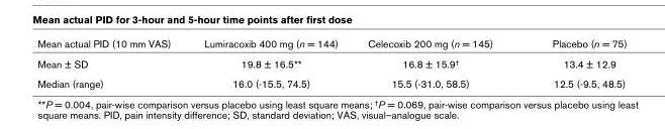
<table><thead><tr><td>Mean actual PID (10 mm VAS)</td><td>Lumiracoxib 400 mg (n = 144)</td><td>Celecoxib 200 mg (n = 145)</td><td>Placebo (n = 75)</td></tr></thead><tbody><tr><td>Mean ± SD</td><td>19.8 ± 16.5**</td><td>16.8 ± 15.9†</td><td>13.4 ± 12.9</td></tr><tr><td>Median (range)</td><td>16.0 (-15.5, 74.5)</td><td>15.5 (-31.0, 58.5)</td><td>12.5 (-9.5, 48.5)</td></tr></tbody></table>